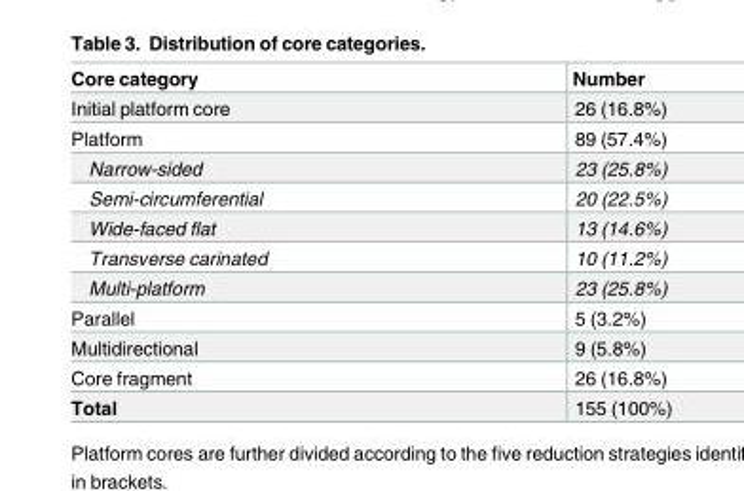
<table><thead><tr><td>Core category</td><td>Number</td></tr></thead><tbody><tr><td>Initial platform core</td><td>26 (16.8%)</td></tr><tr><td>Platform</td><td>89 (57.4%)</td></tr><tr><td>Narrow-sided</td><td>23 (25.8%)</td></tr><tr><td>Semi-circumferential</td><td>20 (22.5%)</td></tr><tr><td>Wide-faced flat</td><td>13 (14.6%)</td></tr><tr><td>Transverse carinated</td><td>10 (11.2%)</td></tr><tr><td>Multi-platform</td><td>23 (25.8%)</td></tr><tr><td>Parallel</td><td>5 (3.2%)</td></tr><tr><td>Multidirectional</td><td>9 (5.8%)</td></tr><tr><td>Core fragment</td><td>26 (16.8%)</td></tr><tr><td>Total</td><td>155 (100%)</td></tr></tbody></table>